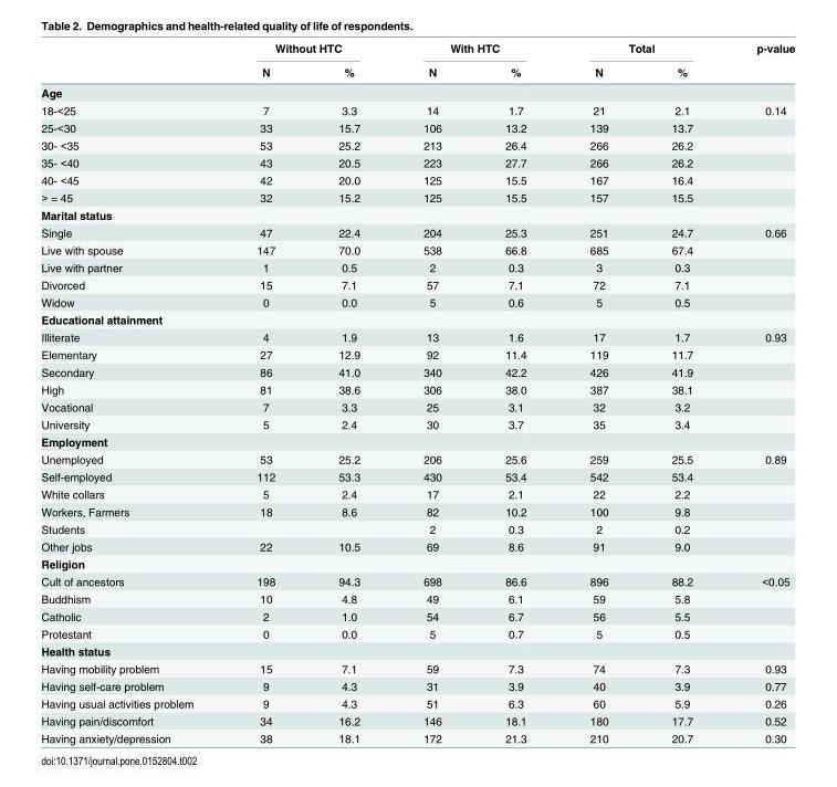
<table><thead><tr><td rowspan="2"></td><td colspan="2">Without HTC</td><td colspan="2">With HTC</td><td colspan="2">Total</td><td rowspan="2">p-value</td></tr><tr><td>N</td><td>%</td><td>N</td><td>%</td><td>N</td><td>%</td></tr></thead><tbody><tr><td colspan="8">Age</td></tr><tr><td>18-&lt;25</td><td>7</td><td>3.3</td><td>14</td><td>1.7</td><td>21</td><td>2.1</td><td>0.14</td></tr><tr><td>25-&lt;30</td><td>33</td><td>15.7</td><td>106</td><td>13.2</td><td>139</td><td>13.7</td><td></td></tr><tr><td>30- &lt;35</td><td>53</td><td>25.2</td><td>213</td><td>26.4</td><td>266</td><td>26.2</td><td></td></tr><tr><td>35- &lt;40</td><td>43</td><td>20.5</td><td>223</td><td>27.7</td><td>266</td><td>26.2</td><td></td></tr><tr><td>40- &lt;45</td><td>42</td><td>20.0</td><td>125</td><td>15.5</td><td>167</td><td>16.4</td><td></td></tr><tr><td>&gt; = 45</td><td>32</td><td>15.2</td><td>125</td><td>15.5</td><td>157</td><td>15.5</td><td></td></tr><tr><td colspan="8">Marital status</td></tr><tr><td>Single</td><td>47</td><td>22.4</td><td>204</td><td>25.3</td><td>251</td><td>24.7</td><td>0.66</td></tr><tr><td>Live with spouse</td><td>147</td><td>70.0</td><td>538</td><td>66.8</td><td>685</td><td>67.4</td><td></td></tr><tr><td>Live with partner</td><td>1</td><td>0.5</td><td>2</td><td>0.3</td><td>3</td><td>0.3</td><td></td></tr><tr><td>Divorced</td><td>15</td><td>7.1</td><td>57</td><td>7.1</td><td>72</td><td>7.1</td><td></td></tr><tr><td>Widow</td><td>0</td><td>0.0</td><td>5</td><td>0.6</td><td>5</td><td>0.5</td><td></td></tr><tr><td colspan="8">Educational attainment</td></tr><tr><td>Illiterate</td><td>4</td><td>1.9</td><td>13</td><td>1.6</td><td>17</td><td>1.7</td><td>0.93</td></tr><tr><td>Elementary</td><td>27</td><td>12.9</td><td>92</td><td>11.4</td><td>119</td><td>11.7</td><td></td></tr><tr><td>Secondary</td><td>86</td><td>41.0</td><td>340</td><td>42.2</td><td>426</td><td>41.9</td><td></td></tr><tr><td>High</td><td>81</td><td>38.6</td><td>306</td><td>38.0</td><td>387</td><td>38.1</td><td></td></tr><tr><td>Vocational</td><td>7</td><td>3.3</td><td>25</td><td>3.1</td><td>32</td><td>3.2</td><td></td></tr><tr><td>University</td><td>5</td><td>2.4</td><td>30</td><td>3.7</td><td>35</td><td>3.4</td><td></td></tr><tr><td colspan="8">Employment</td></tr><tr><td>Unemployed</td><td>53</td><td>25.2</td><td>206</td><td>25.6</td><td>259</td><td>25.5</td><td>0.89</td></tr><tr><td>Self-employed</td><td>112</td><td>53.3</td><td>430</td><td>53.4</td><td>542</td><td>53.4</td><td></td></tr><tr><td>White collars</td><td>5</td><td>2.4</td><td>17</td><td>2.1</td><td>22</td><td>2.2</td><td></td></tr><tr><td>Workers, Farmers</td><td>18</td><td>8.6</td><td>82</td><td>10.2</td><td>100</td><td>9.8</td><td></td></tr><tr><td>Students</td><td></td><td></td><td>2</td><td>0.3</td><td>2</td><td>0.2</td><td></td></tr><tr><td>Other jobs</td><td>22</td><td>10.5</td><td>69</td><td>8.6</td><td>91</td><td>9.0</td><td></td></tr><tr><td colspan="8">Religion</td></tr><tr><td>Cult of ancestors</td><td>198</td><td>94.3</td><td>698</td><td>86.6</td><td>896</td><td>88.2</td><td>&lt;0.05</td></tr><tr><td>Buddhism</td><td>10</td><td>4.8</td><td>49</td><td>6.1</td><td>59</td><td>5.8</td><td></td></tr><tr><td>Catholic</td><td>2</td><td>1.0</td><td>54</td><td>6.7</td><td>56</td><td>5.5</td><td></td></tr><tr><td>Protestant</td><td>0</td><td>0.0</td><td>5</td><td>0.7</td><td>5</td><td>0.5</td><td></td></tr><tr><td colspan="8">Health status</td></tr><tr><td>Having mobility problem</td><td>15</td><td>7.1</td><td>59</td><td>7.3</td><td>74</td><td>7.3</td><td>0.93</td></tr><tr><td>Having self-care problem</td><td>9</td><td>4.3</td><td>31</td><td>3.9</td><td>40</td><td>3.9</td><td>0.77</td></tr><tr><td>Having usual activities problem</td><td>9</td><td>4.3</td><td>51</td><td>6.3</td><td>60</td><td>5.9</td><td>0.26</td></tr><tr><td>Having pain/discomfort</td><td>34</td><td>16.2</td><td>146</td><td>18.1</td><td>180</td><td>17.7</td><td>0.52</td></tr><tr><td>Having anxiety/depression</td><td>38</td><td>18.1</td><td>172</td><td>21.3</td><td>210</td><td>20.7</td><td>0.30</td></tr></tbody></table>